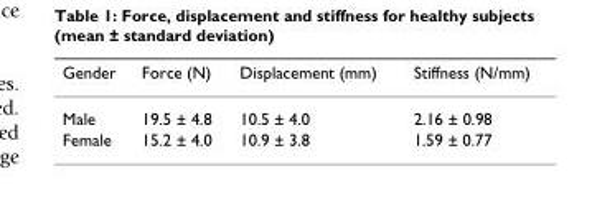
<table><thead><tr><td>Gender</td><td>Force (N)</td><td>Displacement (mm)</td><td>Stiffness (N/mm)</td></tr></thead><tbody><tr><td>Male</td><td>19.5 ± 4.8</td><td>10.5 ± 4.0</td><td>2.16 ± 0.98</td></tr><tr><td>Female</td><td>15.2 ± 4.0</td><td>10.9 ± 3.8</td><td>1.59 ± 0.77</td></tr></tbody></table>